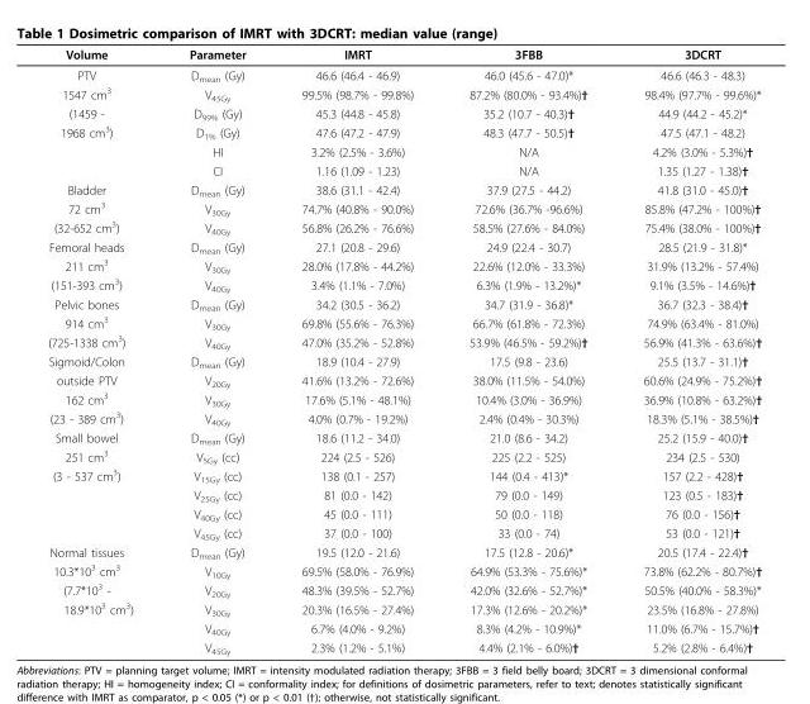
<table><thead><tr><td>Volume</td><td>Parameter</td><td>IMRT</td><td>3FBB</td><td>3DCRT</td></tr></thead><tbody><tr><td>PTV</td><td>D<sub>mean</sub> (Gy)</td><td>46.6 (46.4 - 46.9)</td><td>46.0 (45.6 - 47.0)*</td><td>46.6 (46.3 - 48.3)</td></tr><tr><td>1547 cm<sup>3</sup></td><td>V<sub>45Gy</sub></td><td>99.5% (98.7% - 99.8%)</td><td>87.2% (80.0% - 93.4%)†</td><td>98.4% (97.7% - 99.6%)*</td></tr><tr><td>(1459 -</td><td>D<sub>99%</sub> (Gy)</td><td>45.3 (44.8 - 45.8)</td><td>35.2 (10.7 - 40.3)†</td><td>44.9 (44.2 - 45.2)*</td></tr><tr><td rowspan="3">1968 cm<sup>3</sup>)</td><td>D<sub>1%</sub> (Gy)</td><td>47.6 (47.2 - 47.9)</td><td>48.3 (47.7 - 50.5)†</td><td>47.5 (47.1 - 48.2)</td></tr><tr><td>HI</td><td>3.2% (2.5% - 3.6%)</td><td>N/A</td><td>4.2% (3.0% - 5.3%)†</td></tr><tr><td>CI</td><td>1.16 (1.09 - 1.23)</td><td>N/A</td><td>1.35 (1.27 - 1.38)†</td></tr><tr><td>Bladder</td><td>D<sub>mean</sub> (Gy)</td><td>38.6 (31.1 - 42.4)</td><td>37.9 (27.5 - 44.2)</td><td>41.8 (31.0 - 45.0)†</td></tr><tr><td>72 cm<sup>3</sup></td><td>V<sub>30Gy</sub></td><td>74.7% (40.8% - 90.0%)</td><td>72.6% (36.7% -96.6%)</td><td>85.8% (47.2% - 100%)†</td></tr><tr><td>(32-652 cm<sup>3</sup>)</td><td>V<sub>40Gy</sub></td><td>56.8% (26.2% - 76.6%)</td><td>58.5% (27.6% - 84.0%)</td><td>75.4% (38.0% - 100%)†</td></tr><tr><td>Femoral heads</td><td>D<sub>mean</sub> (Gy)</td><td>27.1 (20.8 - 29.6)</td><td>24.9 (22.4 - 30.7)</td><td>28.5 (21.9 - 31.8)*</td></tr><tr><td>211 cm<sup>3</sup></td><td>V<sub>30Gy</sub></td><td>28.0% (17.8% - 44.2%)</td><td>22.6% (12.0% - 33.3%)</td><td>31.9% (13.2% - 57.4%)</td></tr><tr><td>(151-393 cm<sup>3</sup>)</td><td>V<sub>40Gy</sub></td><td>3.4% (1.1% - 7.0%)</td><td>6.3% (1.9% - 13.2%)*</td><td>9.1% (3.5% - 14.6%)†</td></tr><tr><td>Pelvic bones</td><td>D<sub>mean</sub> (Gy)</td><td>34.2 (30.5 - 36.2)</td><td>34.7 (31.9 - 36.8)*</td><td>36.7 (32.3 - 38.4)†</td></tr><tr><td>914 cm<sup>3</sup></td><td>V<sub>30Gy</sub></td><td>69.8% (55.6% - 76.3%)</td><td>66.7% (61.8% - 72.3%)</td><td>74.9% (63.4% - 81.0%)</td></tr><tr><td>(725-1338 cm<sup>3</sup>)</td><td>V<sub>40Gy</sub></td><td>47.0% (35.2% - 52.8%)</td><td>53.9% (46.5% - 59.2%)†</td><td>56.9% (41.3% - 63.6%)†</td></tr><tr><td>Sigmoid/Colon</td><td>D<sub>mean</sub> (Gy)</td><td>18.9 (10.4 - 27.9)</td><td>17.5 (9.8 - 23.6)</td><td>25.5 (13.7 - 31.1)†</td></tr><tr><td>outside PTV</td><td>V<sub>20Gy</sub></td><td>41.6% (13.2% - 72.6%)</td><td>38.0% (11.5% - 54.0%)</td><td>60.6% (24.9% - 75.2%)†</td></tr><tr><td>162 cm<sup>3</sup></td><td>V<sub>30Gy</sub></td><td>17.6% (5.1% - 48.1%)</td><td>10.4% (3.0% - 36.9%)</td><td>36.9% (10.8% - 63.2%)†</td></tr><tr><td>(23 - 389 cm<sup>3</sup>)</td><td>V<sub>40Gy</sub></td><td>4.0% (0.7% - 19.2%)</td><td>2.4% (0.4% - 30.3%)</td><td>18.3% (5.1% - 38.5%)†</td></tr><tr><td>Small bowel</td><td>D<sub>mean</sub> (Gy)</td><td>18.6 (11.2 - 34.0)</td><td>21.0 (8.6 - 34.2)</td><td>25.2 (15.9 - 40.0)†</td></tr><tr><td>251 cm<sup>3</sup></td><td>V<sub>5Gy</sub> (cc)</td><td>224 (2.5 - 526)</td><td>225 (2.2 - 525)</td><td>234 (2.5 - 530)</td></tr><tr><td rowspan="4">(3 - 537 cm<sup>3</sup>)</td><td>V<sub>15Gy</sub> (cc)</td><td>138 (0.1 - 257)</td><td>144 (0.4 - 413)*</td><td>157 (2.2 - 428)†</td></tr><tr><td>V<sub>25Gy</sub> (cc)</td><td>81 (0.0 - 142)</td><td>79 (0.0 - 149)</td><td>123 (0.5 - 183)†</td></tr><tr><td>V<sub>40Gy</sub> (cc)</td><td>45 (0.0 - 111)</td><td>50 (0.0 - 118)</td><td>76 (0.0 - 156)†</td></tr><tr><td>V<sub>45Gy</sub> (cc)</td><td>37 (0.0 - 100)</td><td>33 (0.0 - 74)</td><td>53 (0.0 - 121)†</td></tr><tr><td>Normal tissues</td><td>D<sub>mean</sub> (Gy)</td><td>19.5 (12.0 - 21.6)</td><td>17.5 (12.8 - 20.6)*</td><td>20.5 (17.4 - 22.4)†</td></tr><tr><td>10.3*10<sup>3</sup> cm<sup>3</sup></td><td>V<sub>10Gy</sub></td><td>69.5% (58.0% - 76.9%)</td><td>64.9% (53.3% - 75.6%)*</td><td>73.8% (62.2% - 80.7%)†</td></tr><tr><td>(7.7*10<sup>3</sup> -</td><td>V<sub>20Gy</sub></td><td>48.3% (39.5% - 52.7%)</td><td>42.0% (32.6% - 52.7%)*</td><td>50.5% (40.0% - 58.3%)*</td></tr><tr><td rowspan="3">18.9*10<sup>3</sup> cm<sup>3</sup>)</td><td>V<sub>30Gy</sub></td><td>20.3% (16.5% - 27.4%)</td><td>17.3% (12.6% - 20.2%)*</td><td>23.5% (16.8% - 27.8%)</td></tr><tr><td>V<sub>40Gy</sub></td><td>6.7% (4.0% - 9.2%)</td><td>8.3% (4.2% - 10.9%)*</td><td>11.0% (6.7% - 15.7%)†</td></tr><tr><td>V<sub>45Gy</sub></td><td>2.3% (1.2% - 5.1%)</td><td>4.4% (2.1% - 6.0%)†</td><td>5.2% (2.8% - 6.4%)†</td></tr></tbody></table>